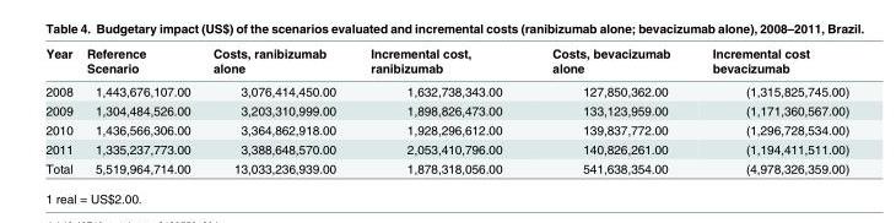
<table><thead><tr><td>Year</td><td>Reference Scenario</td><td>Costs, ranibizumab alone</td><td>Incremental cost, ranibizumab</td><td>Costs, bevacizumab alone</td><td>Incremental cost bevacizumab</td></tr></thead><tbody><tr><td>2008</td><td>1,443,676,107.00</td><td>3,076,414,450.00</td><td>1,632,738,343.00</td><td>127,850,362.00</td><td>(1,315,825,745.00)</td></tr><tr><td>2009</td><td>1,304,484,526.00</td><td>3,203,310,999.00</td><td>1,898,826,473.00</td><td>133,123,959.00</td><td>(1,171,360,567.00)</td></tr><tr><td>2010</td><td>1,436,566,306.00</td><td>3,364,862,918.00</td><td>1,928,296,612.00</td><td>139,837,772.00</td><td>(1,296,728,534.00)</td></tr><tr><td>2011</td><td>1,335,237,773.00</td><td>3,388,648,570.00</td><td>2,053,410,796.00</td><td>140,826,261.00</td><td>(1,194,411,511.00)</td></tr><tr><td>Total</td><td>5,519,964,714.00</td><td>13,033,236,939.00</td><td>1,878,318,056.00</td><td>541,638,354.00</td><td>(4,978,326,359.00)</td></tr></tbody></table>